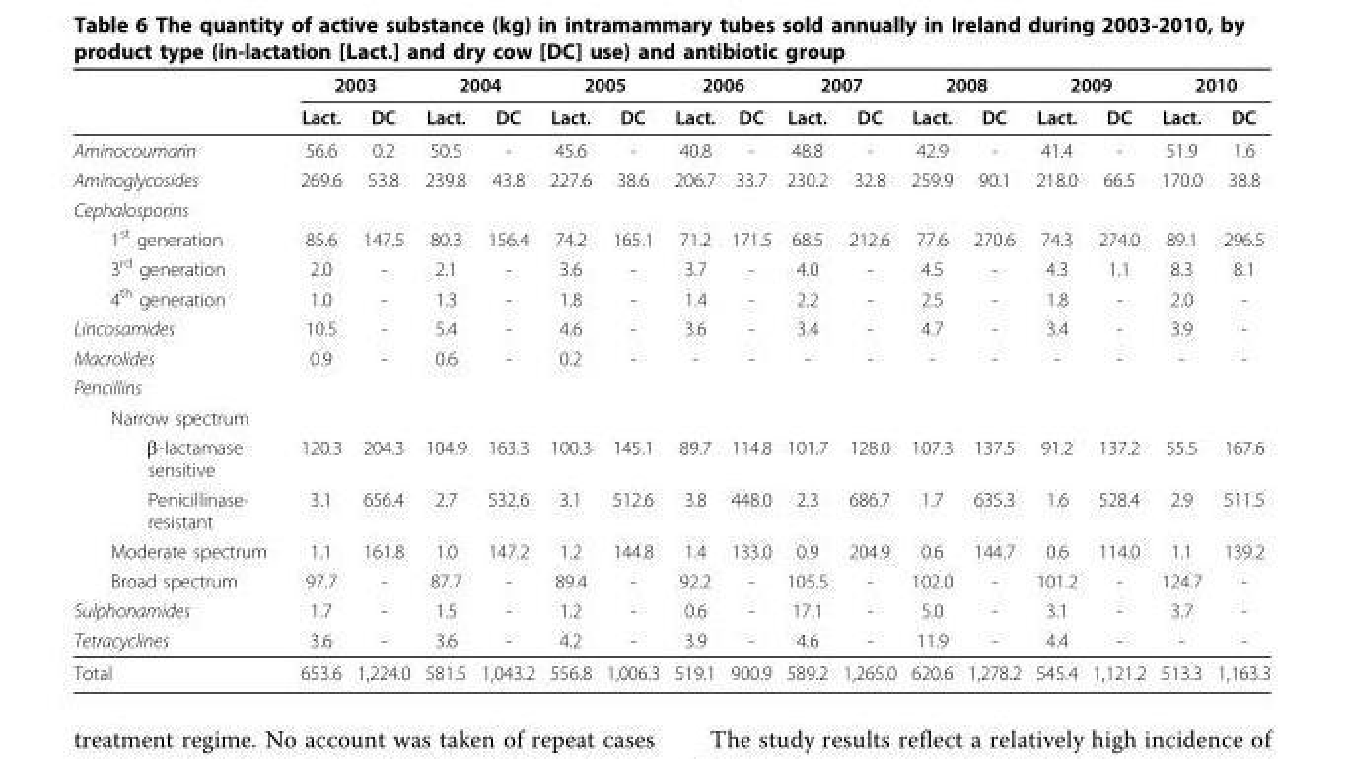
<table><thead><tr><td rowspan="2"></td><td colspan="2">2003</td><td colspan="2">2004</td><td colspan="2">2005</td><td colspan="2">2006</td><td colspan="2">2007</td><td colspan="2">2008</td><td colspan="2">2009</td><td colspan="2">2010</td></tr><tr><td>Lact.</td><td>DC</td><td>Lact.</td><td>DC</td><td>Lact.</td><td>DC</td><td>Lact.</td><td>DC</td><td>Lact.</td><td>DC</td><td>Lact.</td><td>DC</td><td>Lact.</td><td>DC</td><td>Lact.</td><td>DC</td></tr></thead><tbody><tr><td>Aminocoumarin</td><td>56.6</td><td>0.2</td><td>50.5</td><td>-</td><td>45.6</td><td>-</td><td>40.8</td><td>-</td><td>48.8</td><td>-</td><td>42.9</td><td>-</td><td>41.4</td><td>-</td><td>51.9</td><td>1.6</td></tr><tr><td>Aminoglycosides</td><td>269.6</td><td>53.8</td><td>239.8</td><td>43.8</td><td>227.6</td><td>38.6</td><td>206.7</td><td>33.7</td><td>230.2</td><td>32.8</td><td>259.9</td><td>90.1</td><td>218.0</td><td>66.5</td><td>170.0</td><td>38.8</td></tr><tr><td colspan="17">Cephalosporins</td></tr><tr><td>1<sup>st</sup> generation</td><td>85.6</td><td>147.5</td><td>80.3</td><td>156.4</td><td>74.2</td><td>165.1</td><td>71.2</td><td>171.5</td><td>68.5</td><td>212.6</td><td>77.6</td><td>270.6</td><td>74.3</td><td>274.0</td><td>89.1</td><td>296.5</td></tr><tr><td>3<sup>rd</sup> generation</td><td>2.0</td><td>-</td><td>2.1</td><td>-</td><td>3.6</td><td>-</td><td>3.7</td><td>-</td><td>4.0</td><td>-</td><td>4.5</td><td>-</td><td>4.3</td><td>1.1</td><td>8.3</td><td>8.1</td></tr><tr><td>4<sup>th</sup> generation</td><td>1.0</td><td>-</td><td>1.3</td><td>-</td><td>1.8</td><td>-</td><td>1.4</td><td>-</td><td>2.2</td><td>-</td><td>2.5</td><td>-</td><td>1.8</td><td>-</td><td>2.0</td><td>-</td></tr><tr><td>Lincosamides</td><td>10.5</td><td>-</td><td>5.4</td><td>-</td><td>4.6</td><td>-</td><td>3.6</td><td>-</td><td>3.4</td><td>-</td><td>4.7</td><td>-</td><td>3.4</td><td>-</td><td>3.9</td><td>-</td></tr><tr><td>Macrolides</td><td>0.9</td><td>-</td><td>0.6</td><td>-</td><td>0.2</td><td>-</td><td>-</td><td>-</td><td>-</td><td>-</td><td>-</td><td>-</td><td>-</td><td>-</td><td>-</td><td>-</td></tr><tr><td colspan="17">Pencillins</td></tr><tr><td colspan="17">Narrow spectrum</td></tr><tr><td>β-lactamase sensitive</td><td>120.3</td><td>204.3</td><td>104.9</td><td>163.3</td><td>100.3</td><td>145.1</td><td>89.7</td><td>114.8</td><td>101.7</td><td>128.0</td><td>107.3</td><td>137.5</td><td>91.2</td><td>137.2</td><td>55.5</td><td>167.6</td></tr><tr><td>Penicillinase- resistant</td><td>3.1</td><td>656.4</td><td>2.7</td><td>532.6</td><td>3.1</td><td>512.6</td><td>3.8</td><td>448.0</td><td>2.3</td><td>686.7</td><td>1.7</td><td>635.3</td><td>1.6</td><td>528.4</td><td>2.9</td><td>511.5</td></tr><tr><td>Moderate spectrum</td><td>1.1</td><td>161.8</td><td>1.0</td><td>147.2</td><td>1.2</td><td>144.8</td><td>1.4</td><td>133.0</td><td>0.9</td><td>204.9</td><td>0.6</td><td>144.7</td><td>0.6</td><td>114.0</td><td>1.1</td><td>139.2</td></tr><tr><td>Broad spectrum</td><td>97.7</td><td>-</td><td>87.7</td><td>-</td><td>89.4</td><td>-</td><td>92.2</td><td>-</td><td>105.5</td><td>-</td><td>102.0</td><td>-</td><td>101.2</td><td>-</td><td>124.7</td><td>-</td></tr><tr><td>Sulphonamides</td><td>1.7</td><td>-</td><td>1.5</td><td>-</td><td>1.2</td><td>-</td><td>0.6</td><td>-</td><td>17.1</td><td>-</td><td>5.0</td><td>-</td><td>3.1</td><td>-</td><td>3.7</td><td>-</td></tr><tr><td>Tetracyclines</td><td>3.6</td><td>-</td><td>3.6</td><td>-</td><td>4.2</td><td>-</td><td>3.9</td><td>-</td><td>4.6</td><td>-</td><td>11.9</td><td>-</td><td>4.4</td><td>-</td><td>-</td><td>-</td></tr><tr><td>Total</td><td>653.6</td><td>1,224.0</td><td>581.5</td><td>1,043.2</td><td>556.8</td><td>1,006.3</td><td>519.1</td><td>900.9</td><td>589.2</td><td>1,265.0</td><td>620.6</td><td>1,278.2</td><td>545.4</td><td>1,121.2</td><td>513.3</td><td>1,163.3</td></tr></tbody></table>